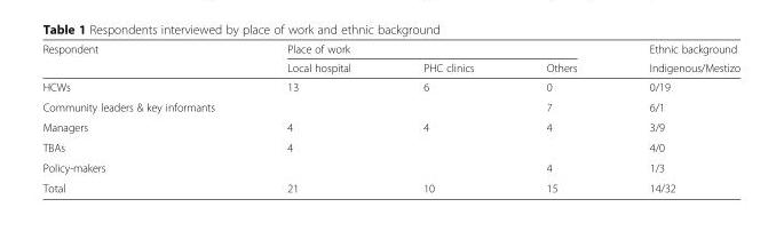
<table><thead><tr><td rowspan="2">Respondent</td><td colspan="3">Place of work</td><td rowspan="2">Ethnic background Indigenous/Mestizo</td></tr><tr><td>Local hospital</td><td>PHC clinics</td><td>Others</td></tr></thead><tbody><tr><td>HCWs</td><td>13</td><td>6</td><td>0</td><td>0/19</td></tr><tr><td>Community leaders &amp; key informants</td><td></td><td></td><td>7</td><td>6/1</td></tr><tr><td>Managers</td><td>4</td><td>4</td><td>4</td><td>3/9</td></tr><tr><td>TBAs</td><td>4</td><td></td><td></td><td>4/0</td></tr><tr><td>Policy-makers</td><td></td><td></td><td>4</td><td>1/3</td></tr><tr><td>Total</td><td>21</td><td>10</td><td>15</td><td>14/32</td></tr></tbody></table>